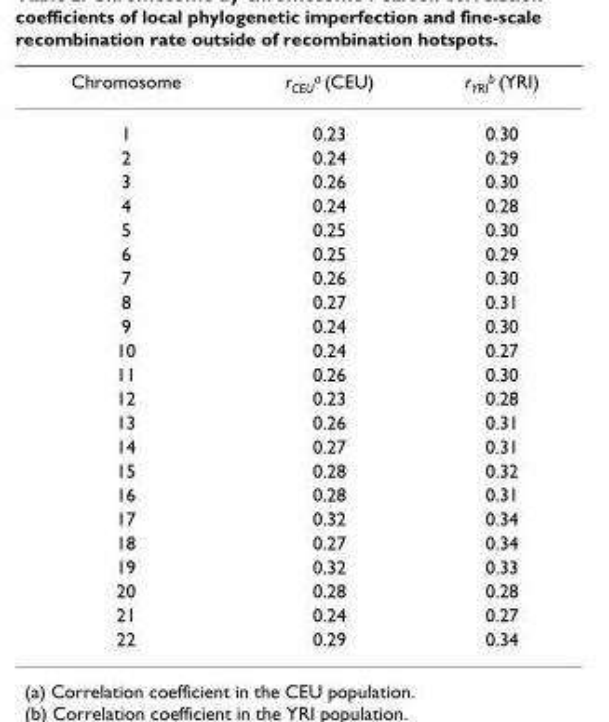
<table><thead><tr><td>Chromosome</td><td>r<sub>CEU</sub><sup>a</sup> (CEU)</td><td>r<sub>YRI</sub><sup>b</sup> (YRI)</td></tr></thead><tbody><tr><td>1</td><td>0.23</td><td>0.30</td></tr><tr><td>2</td><td>0.24</td><td>0.29</td></tr><tr><td>3</td><td>0.26</td><td>0.30</td></tr><tr><td>4</td><td>0.24</td><td>0.28</td></tr><tr><td>5</td><td>0.25</td><td>0.30</td></tr><tr><td>6</td><td>0.25</td><td>0.29</td></tr><tr><td>7</td><td>0.26</td><td>0.30</td></tr><tr><td>8</td><td>0.27</td><td>0.31</td></tr><tr><td>9</td><td>0.24</td><td>0.30</td></tr><tr><td>10</td><td>0.24</td><td>0.27</td></tr><tr><td>11</td><td>0.26</td><td>0.30</td></tr><tr><td>12</td><td>0.23</td><td>0.28</td></tr><tr><td>13</td><td>0.26</td><td>0.31</td></tr><tr><td>14</td><td>0.27</td><td>0.31</td></tr><tr><td>15</td><td>0.28</td><td>0.32</td></tr><tr><td>16</td><td>0.28</td><td>0.31</td></tr><tr><td>17</td><td>0.32</td><td>0.34</td></tr><tr><td>18</td><td>0.27</td><td>0.34</td></tr><tr><td>19</td><td>0.32</td><td>0.33</td></tr><tr><td>20</td><td>0.28</td><td>0.28</td></tr><tr><td>21</td><td>0.24</td><td>0.27</td></tr><tr><td>22</td><td>0.29</td><td>0.34</td></tr></tbody></table>